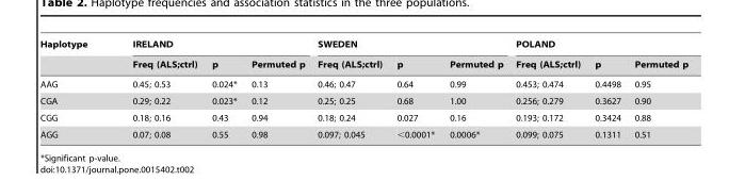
<table><thead><tr><td rowspan="2">Haplotype</td><td colspan="3">IRELAND</td><td colspan="3">SWEDEN</td><td colspan="3">POLAND</td></tr><tr><td>Freq (ALS;ctrl)</td><td>p</td><td>Permuted p</td><td>Freq (ALS;ctrl)</td><td>p</td><td>Permuted p</td><td>Freq (ALS;ctrl)</td><td>p</td><td>Permuted p</td></tr></thead><tbody><tr><td>AAG</td><td>0.45; 0.53</td><td>0.024*</td><td>0.13</td><td>0.46; 0.47</td><td>0.64</td><td>0.99</td><td>0.453; 0.474</td><td>0.4498</td><td>0.95</td></tr><tr><td>CGA</td><td>0.29; 0.22</td><td>0.023*</td><td>0.12</td><td>0.25; 0.25</td><td>0.68</td><td>1.00</td><td>0.256; 0.279</td><td>0.3627</td><td>0.90</td></tr><tr><td>CGG</td><td>0.18; 0.16</td><td>0.43</td><td>0.94</td><td>0.18; 0.24</td><td>0.027</td><td>0.16</td><td>0.193; 0.172</td><td>0.3424</td><td>0.88</td></tr><tr><td>AGG</td><td>0.07; 0.08</td><td>0.55</td><td>0.98</td><td>0.097; 0.045</td><td>&lt;0.0001*</td><td>0.0006*</td><td>0.099; 0.075</td><td>0.1311</td><td>0.51</td></tr></tbody></table>